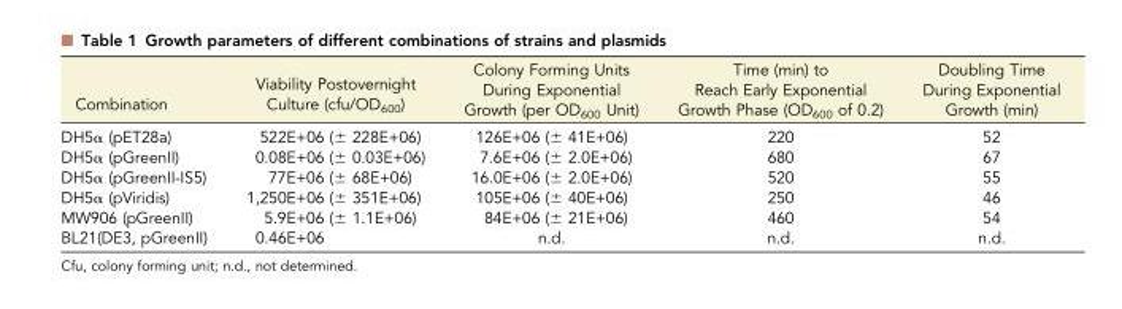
<table><thead><tr><td>Combination</td><td>Viability Postovernight Culture (cfu/OD<sub>600</sub>)</td><td>Colony Forming Units During Exponential Growth (per OD<sub>600</sub> Unit)</td><td>Time (min) to Reach Early Exponential Growth Phase (OD<sub>600</sub> of 0.2)</td><td>Doubling Time During Exponential Growth (min)</td></tr></thead><tbody><tr><td>DH5α (pET28a)</td><td>522E+06 (± 228E+06)</td><td>126E+06 (± 41E+06)</td><td>220</td><td>52</td></tr><tr><td>DH5α (pGreenII)</td><td>0.08E+06 (± 0.03E+06)</td><td>7.6E+06 (± 2.0E+06)</td><td>680</td><td>67</td></tr><tr><td>DH5α (pGreenII-IS5)</td><td>77E+06 (± 68E+06)</td><td>16.0E+06 (± 2.0E+06)</td><td>520</td><td>55</td></tr><tr><td>DH5α (pViridis)</td><td>1,250E+06 (± 351E+06)</td><td>105E+06 (± 40E+06)</td><td>250</td><td>46</td></tr><tr><td>MW906 (pGreenII)</td><td>5.9E+06 (± 1.1E+06)</td><td>84E+06 (± 21E+06)</td><td>460</td><td>54</td></tr><tr><td>BL21(DE3, pGreenII)</td><td>0.46E+06</td><td>n.d.</td><td>n.d.</td><td>n.d.</td></tr></tbody></table>